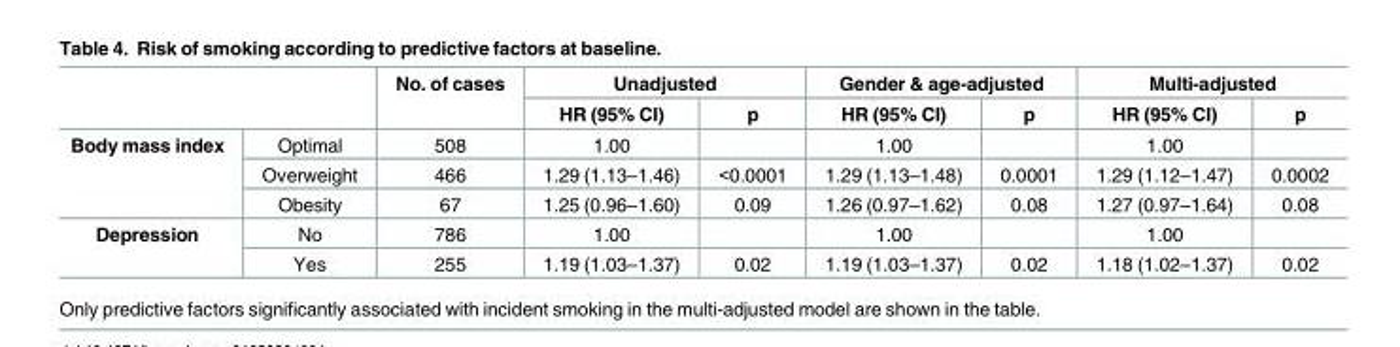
<table><thead><tr><td rowspan="2"></td><td rowspan="2"></td><td rowspan="2">No. of cases</td><td colspan="2">Unadjusted</td><td colspan="2">Gender &amp; age-adjusted</td><td colspan="2">Multi-adjusted</td></tr><tr><td>HR (95% CI)</td><td>p</td><td>HR (95% CI)</td><td>p</td><td>HR (95% CI)</td><td>p</td></tr></thead><tbody><tr><td rowspan="3">Body mass index</td><td>Optimal</td><td>508</td><td>1.00</td><td></td><td>1.00</td><td></td><td>1.00</td><td></td></tr><tr><td>Overweight</td><td>466</td><td>1.29 (1.13–1.46)</td><td>&lt;0.0001</td><td>1.29 (1.13–1.48)</td><td>0.0001</td><td>1.29 (1.12–1.47)</td><td>0.0002</td></tr><tr><td>Obesity</td><td>67</td><td>1.25 (0.96–1.60)</td><td>0.09</td><td>1.26 (0.97–1.62)</td><td>0.08</td><td>1.27 (0.97–1.64)</td><td>0.08</td></tr><tr><td rowspan="2">Depression</td><td>No</td><td>786</td><td>1.00</td><td></td><td>1.00</td><td></td><td>1.00</td><td></td></tr><tr><td>Yes</td><td>255</td><td>1.19 (1.03–1.37)</td><td>0.02</td><td>1.19 (1.03–1.37)</td><td>0.02</td><td>1.18 (1.02–1.37)</td><td>0.02</td></tr></tbody></table>